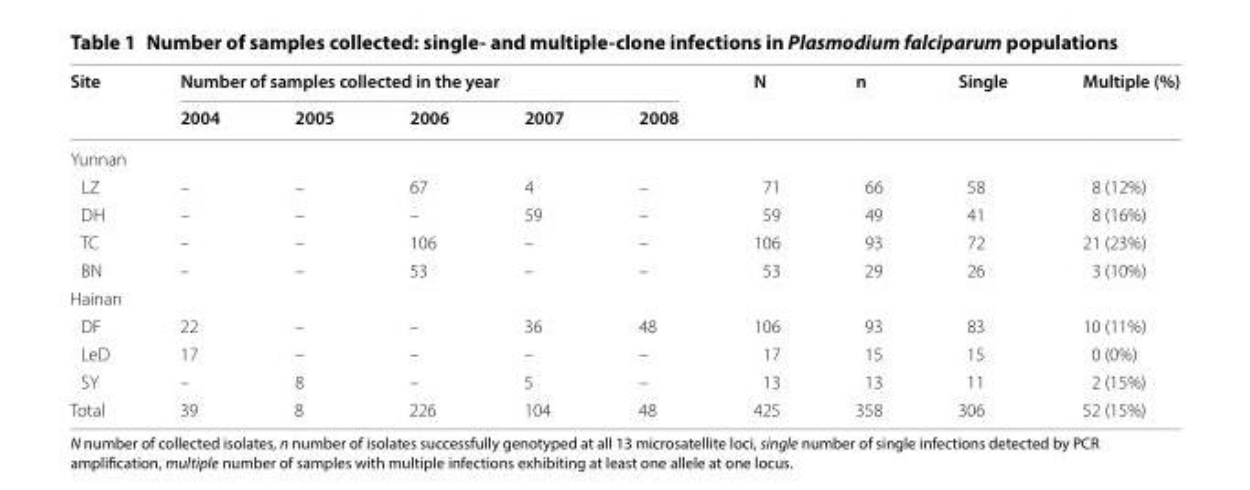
<table><thead><tr><td rowspan="2">Site</td><td colspan="5">Number of samples collected in the year</td><td rowspan="2">N</td><td rowspan="2">n</td><td rowspan="2">Single</td><td rowspan="2">Multiple (%)</td></tr><tr><td>2004</td><td>2005</td><td>2006</td><td>2007</td><td>2008</td></tr></thead><tbody><tr><td colspan="10">Yunnan</td></tr><tr><td>LZ</td><td>–</td><td>–</td><td>67</td><td>4</td><td>–</td><td>71</td><td>66</td><td>58</td><td>8 (12%)</td></tr><tr><td>DH</td><td>–</td><td>–</td><td>–</td><td>59</td><td>–</td><td>59</td><td>49</td><td>41</td><td>8 (16%)</td></tr><tr><td>TC</td><td>–</td><td>–</td><td>106</td><td>–</td><td>–</td><td>106</td><td>93</td><td>72</td><td>21 (23%)</td></tr><tr><td>BN</td><td>–</td><td>–</td><td>53</td><td>–</td><td>–</td><td>53</td><td>29</td><td>26</td><td>3 (10%)</td></tr><tr><td colspan="10">Hainan</td></tr><tr><td>DF</td><td>22</td><td>–</td><td>–</td><td>36</td><td>48</td><td>106</td><td>93</td><td>83</td><td>10 (11%)</td></tr><tr><td>LeD</td><td>17</td><td>–</td><td>–</td><td>–</td><td>–</td><td>17</td><td>15</td><td>15</td><td>0 (0%)</td></tr><tr><td>SY</td><td>–</td><td>8</td><td>–</td><td>5</td><td>–</td><td>13</td><td>13</td><td>11</td><td>2 (15%)</td></tr><tr><td>Total</td><td>39</td><td>8</td><td>226</td><td>104</td><td>48</td><td>425</td><td>358</td><td>306</td><td>52 (15%)</td></tr></tbody></table>